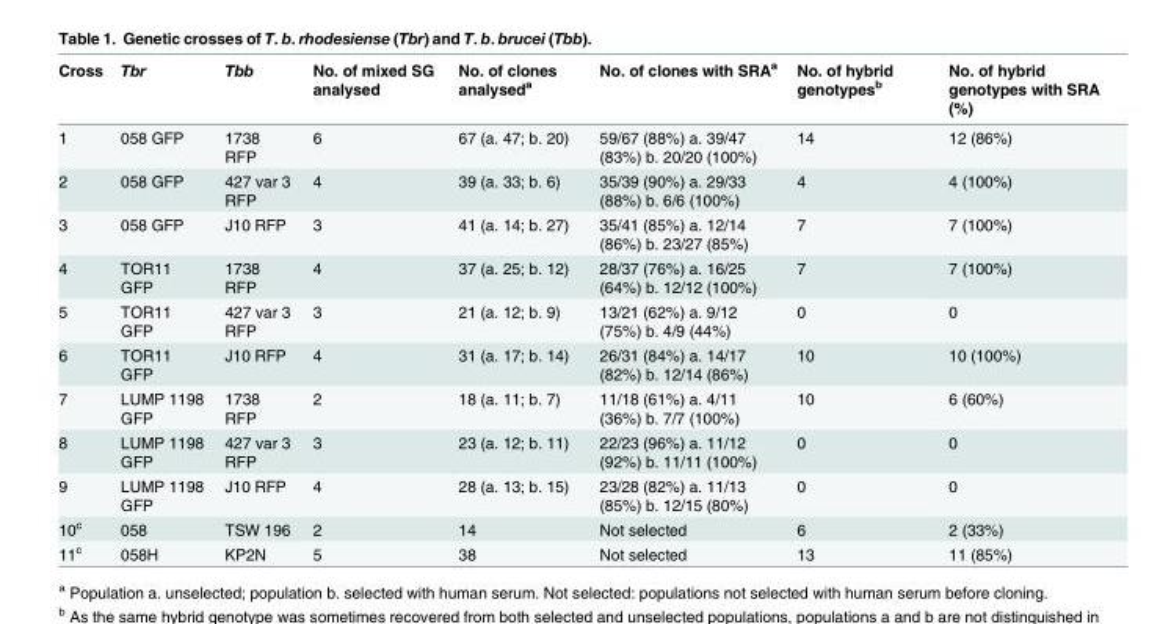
<table><thead><tr><td>Cross</td><td>Tbr</td><td>Tbb</td><td>No. of mixed SG analysed</td><td>No. of clones analysed<sup>a</sup></td><td>No. of clones with SRA<sup>a</sup></td><td>No. of hybrid genotypes<sup>b</sup></td><td>No. of hybrid genotypes with SRA (%)</td></tr></thead><tbody><tr><td>1</td><td>058 GFP</td><td>1738 RFP</td><td>6</td><td>67 (a. 47; b. 20)</td><td>59/67 (88%) a. 39/47 (83%) b. 20/20 (100%)</td><td>14</td><td>12 (86%)</td></tr><tr><td>2</td><td>058 GFP</td><td>427 var 3 RFP</td><td>4</td><td>39 (a. 33; b. 6)</td><td>35/39 (90%) a. 29/33 (88%) b. 6/6 (100%)</td><td>4</td><td>4 (100%)</td></tr><tr><td>3</td><td>058 GFP</td><td>J10 RFP</td><td>3</td><td>41 (a. 14; b. 27)</td><td>35/41 (85%) a. 12/14 (86%) b. 23/27 (85%)</td><td>7</td><td>7 (100%)</td></tr><tr><td>4</td><td>TOR11 GFP</td><td>1738 RFP</td><td>4</td><td>37 (a. 25; b. 12)</td><td>28/37 (76%) a. 16/25 (64%) b. 12/12 (100%)</td><td>7</td><td>7 (100%)</td></tr><tr><td>5</td><td>TOR11 GFP</td><td>427 var 3 RFP</td><td>3</td><td>21 (a. 12; b. 9)</td><td>13/21 (62%) a. 9/12 (75%) b. 4/9 (44%)</td><td>0</td><td>0</td></tr><tr><td>6</td><td>TOR11 GFP</td><td>J10 RFP</td><td>4</td><td>31 (a. 17; b. 14)</td><td>26/31 (84%) a. 14/17 (82%) b. 12/14 (86%)</td><td>10</td><td>10 (100%)</td></tr><tr><td>7</td><td>LUMP 1198 GFP</td><td>1738 RFP</td><td>2</td><td>18 (a. 11; b. 7)</td><td>11/18 (61%) a. 4/11 (36%) b. 7/7 (100%)</td><td>10</td><td>6 (60%)</td></tr><tr><td>8</td><td>LUMP 1198 GFP</td><td>427 var 3 RFP</td><td>3</td><td>23 (a. 12; b. 11)</td><td>22/23 (96%) a. 11/12 (92%) b. 11/11 (100%)</td><td>0</td><td>0</td></tr><tr><td>9</td><td>LUMP 1198 GFP</td><td>J10 RFP</td><td>4</td><td>28 (a. 13; b. 15)</td><td>23/28 (82%) a. 11/13 (85%) b. 12/15 (80%)</td><td>0</td><td>0</td></tr><tr><td>10<sup>c</sup></td><td>058</td><td>TSW 196</td><td>2</td><td>14</td><td>Not selected</td><td>6</td><td>2 (33%)</td></tr><tr><td>11<sup>c</sup></td><td>058H</td><td>KP2N</td><td>5</td><td>38</td><td>Not selected</td><td>13</td><td>11 (85%)</td></tr></tbody></table>